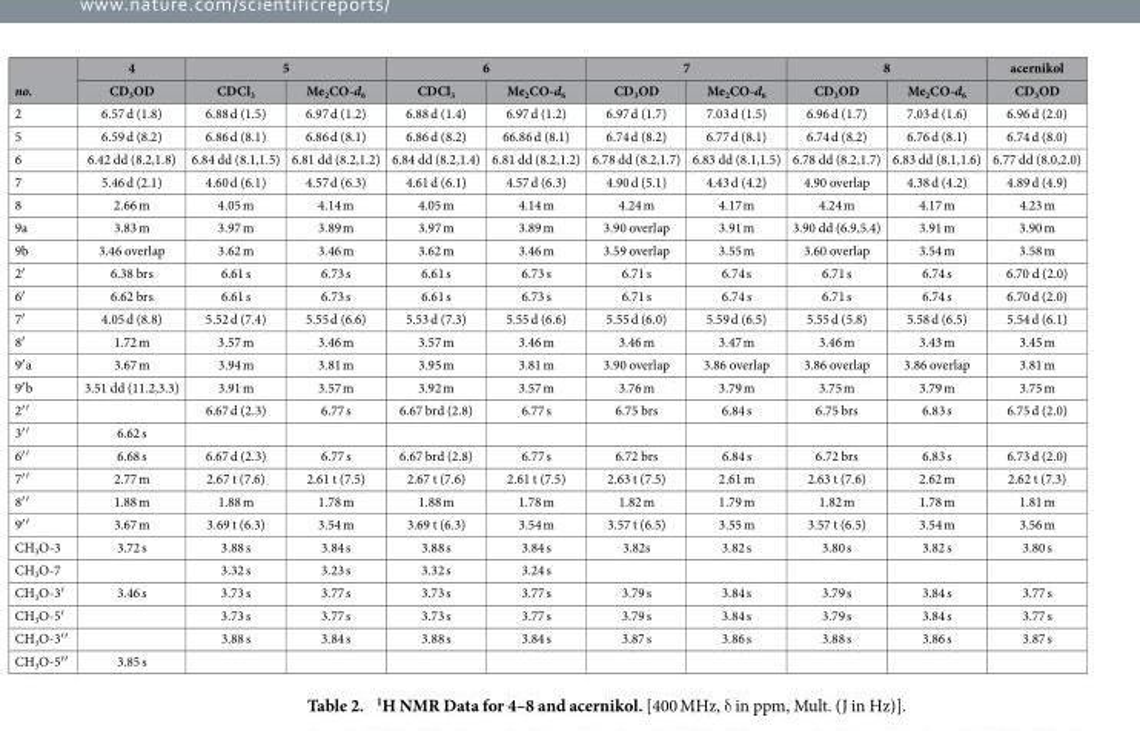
<table><thead><tr><td rowspan="2">no.</td><td rowspan="2">4 CD<sub>3</sub>OD</td><td colspan="2">5</td><td colspan="2">6</td><td colspan="2">7</td><td colspan="2">8</td><td rowspan="2">acernikol CD<sub>3</sub>OD</td></tr><tr><td>CDCl<sub>3</sub></td><td>Me<sub>2</sub>CO-d<sub>6</sub></td><td>CDCl<sub>3</sub></td><td>Me<sub>2</sub>CO-d<sub>6</sub></td><td>CD<sub>3</sub>OD</td><td>Me<sub>2</sub>CO-d<sub>6</sub></td><td>CD<sub>3</sub>OD</td><td>Me<sub>2</sub>CO-d<sub>6</sub></td></tr></thead><tbody><tr><td>2</td><td>6.57 d (1.8)</td><td>6.88 d (1.5)</td><td>6.97 d (1.2)</td><td>6.88 d (1.4)</td><td>6.97 d (1.2)</td><td>6.97 d (1.7)</td><td>7.03 d (1.5)</td><td>6.96 d (1.7)</td><td>7.03 d (1.6)</td><td>6.96 d (2.0)</td></tr><tr><td>5</td><td>6.59 d (8.2)</td><td>6.86 d (8.1)</td><td>6.86 d (8.1)</td><td>6.86 d (8.2)</td><td>66.86 d (8.1)</td><td>6.74 d (8.2)</td><td>6.77 d (8.1)</td><td>6.74 d (8.2)</td><td>6.76 d (8.1)</td><td>6.74 d (8.0)</td></tr><tr><td>6</td><td>6.42 dd (8.2,1.8)</td><td>6.84 dd (8.1,1.5)</td><td>6.81 dd (8.2,1.2)</td><td>6.84 dd (8.2,1.4)</td><td>6.81 dd (8.2,1.2)</td><td>6.78 dd (8.2,1.7)</td><td>6.83 dd (8.1,1.5)</td><td>6.78 dd (8.2,1.7)</td><td>6.83 dd (8.1,1.6)</td><td>6.77 dd (8.0,2.0)</td></tr><tr><td>7</td><td>5.46 d (2.1)</td><td>4.60 d (6.1)</td><td>4.57 d (6.3)</td><td>4.61 d (6.1)</td><td>4.57 d (6.3)</td><td>4.90 d (5.1)</td><td>4.43 d (4.2)</td><td>4.90 overlap</td><td>4.38 d (4.2)</td><td>4.89 d (4.9)</td></tr><tr><td>8</td><td>2.66 m</td><td>4.05 m</td><td>4.14 m</td><td>4.05 m</td><td>4.14 m</td><td>4.24 m</td><td>4.17 m</td><td>4.24 m</td><td>4.17 m</td><td>4.23 m</td></tr><tr><td>9a</td><td>3.83 m</td><td>3.97 m</td><td>3.89 m</td><td>3.97 m</td><td>3.89 m</td><td>3.90 overlap</td><td>3.91 m</td><td>3.90 dd (6.9,5.4)</td><td>3.91 m</td><td>3.90 m</td></tr><tr><td>9b</td><td>3.46 overlap</td><td>3.62 m</td><td>3.46 m</td><td>3.62 m</td><td>3.46 m</td><td>3.59 overlap</td><td>3.55 m</td><td>3.60 overlap</td><td>3.54 m</td><td>3.58 m</td></tr><tr><td>2′</td><td>6.38 brs</td><td>6.61 s</td><td>6.73 s</td><td>6.61 s</td><td>6.73 s</td><td>6.71 s</td><td>6.74 s</td><td>6.71 s</td><td>6.74 s</td><td>6.70 d (2.0)</td></tr><tr><td>6′</td><td>6.62 brs</td><td>6.61 s</td><td>6.73 s</td><td>6.61 s</td><td>6.73 s</td><td>6.71 s</td><td>6.74 s</td><td>6.71 s</td><td>6.74 s</td><td>6.70 d (2.0)</td></tr><tr><td>7′</td><td>4.05 d (8.8)</td><td>5.52 d (7.4)</td><td>5.55 d (6.6)</td><td>5.53 d (7.3)</td><td>5.55 d (6.6)</td><td>5.55 d (6.0)</td><td>5.59 d (6.5)</td><td>5.55 d (5.8)</td><td>5.58 d (6.5)</td><td>5.54 d (6.1)</td></tr><tr><td>8′</td><td>1.72 m</td><td>3.57 m</td><td>3.46 m</td><td>3.57 m</td><td>3.46 m</td><td>3.46 m</td><td>3.47 m</td><td>3.46 m</td><td>3.43 m</td><td>3.45 m</td></tr><tr><td>9′ a</td><td>3.67 m</td><td>3.94 m</td><td>3.81 m</td><td>3.95 m</td><td>3.81 m</td><td>3.90 overlap</td><td>3.86 overlap</td><td>3.86 overlap</td><td>3.86 overlap</td><td>3.81 m</td></tr><tr><td>9′ b</td><td>3.51 dd (11.2,3.3)</td><td>3.91 m</td><td>3.57 m</td><td>3.92 m</td><td>3.57 m</td><td>3.76 m</td><td>3.79 m</td><td>3.75 m</td><td>3.79 m</td><td>3.75 m</td></tr><tr><td>2′ ′</td><td></td><td>6.67 d (2.3)</td><td>6.77 s</td><td>6.67 brd (2.8)</td><td>6.77 s</td><td>6.75 brs</td><td>6.84 s</td><td>6.75 brs</td><td>6.83 s</td><td>6.75 d (2.0)</td></tr><tr><td>3′ ′</td><td>6.62 s</td><td></td><td></td><td></td><td></td><td></td><td></td><td></td><td></td><td></td></tr><tr><td>6′ ′</td><td>6.68 s</td><td>6.67 d (2.3)</td><td>6.77 s</td><td>6.67 brd (2.8)</td><td>6.77 s</td><td>6.72 brs</td><td>6.84 s</td><td>6.72 brs</td><td>6.83 s</td><td>6.73 d (2.0)</td></tr><tr><td>7′ ′</td><td>2.77 m</td><td>2.67 t (7.6)</td><td>2.61 t (7.5)</td><td>2.67 t (7.6)</td><td>2.61 t (7.5)</td><td>2.63 t (7.5)</td><td>2.61 m</td><td>2.63 t (7.6)</td><td>2.62 m</td><td>2.62 t (7.3)</td></tr><tr><td>8′ ′</td><td>1.88 m</td><td>1.88 m</td><td>1.78 m</td><td>1.88 m</td><td>1.78 m</td><td>1.82 m</td><td>1.79 m</td><td>1.82 m</td><td>1.78 m</td><td>1.81 m</td></tr><tr><td>9′ ′</td><td>3.67 m</td><td>3.69 t (6.3)</td><td>3.54 m</td><td>3.69 t (6.3)</td><td>3.54 m</td><td>3.57 t (6.5)</td><td>3.55 m</td><td>3.57 t (6.5)</td><td>3.54 m</td><td>3.56 m</td></tr><tr><td>CH<sub>3</sub>O-3</td><td>3.72 s</td><td>3.88 s</td><td>3.84 s</td><td>3.88 s</td><td>3.84 s</td><td>3.82s</td><td>3.82 s</td><td>3.80 s</td><td>3.82 s</td><td>3.80 s</td></tr><tr><td>CH<sub>3</sub>O-7</td><td></td><td>3.32 s</td><td>3.23 s</td><td>3.32 s</td><td>3.24 s</td><td></td><td></td><td></td><td></td><td></td></tr><tr><td>CH<sub>3</sub>O-3′</td><td>3.46 s</td><td>3.73 s</td><td>3.77 s</td><td>3.73 s</td><td>3.77 s</td><td>3.79 s</td><td>3.84 s</td><td>3.79 s</td><td>3.84 s</td><td>3.77 s</td></tr><tr><td>CH<sub>3</sub>O-5′</td><td></td><td>3.73 s</td><td>3.77 s</td><td>3.73 s</td><td>3.77 s</td><td>3.79 s</td><td>3.84 s</td><td>3.79 s</td><td>3.84 s</td><td>3.77 s</td></tr><tr><td>CH<sub>3</sub>O-3′ ′</td><td></td><td>3.88 s</td><td>3.84 s</td><td>3.88 s</td><td>3.84 s</td><td>3.87 s</td><td>3.86 s</td><td>3.88 s</td><td>3.86 s</td><td>3.87 s</td></tr><tr><td>CH<sub>3</sub>O-5′ ′</td><td>3.85 s</td><td></td><td></td><td></td><td></td><td></td><td></td><td></td><td></td><td></td></tr></tbody></table>